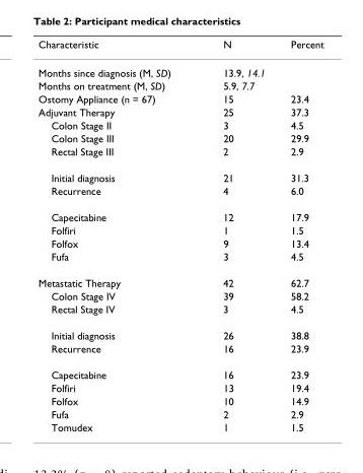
<table><thead><tr><td>Characteristic</td><td>N</td><td>Percent</td></tr></thead><tbody><tr><td>Months since diagnosis (M, SD)</td><td>13.9, 14.1</td><td></td></tr><tr><td>Months on treatment (M, SD)</td><td>5.9, 7.7</td><td></td></tr><tr><td>Ostomy Appliance (n = 67)</td><td>15</td><td>23.4</td></tr><tr><td>Adjuvant Therapy</td><td>25</td><td>37.3</td></tr><tr><td>Colon Stage II</td><td>3</td><td>4.5</td></tr><tr><td>Colon Stage III</td><td>20</td><td>29.9</td></tr><tr><td>Rectal Stage III</td><td>2</td><td>2.9</td></tr><tr><td>Initial diagnosis</td><td>21</td><td>31.3</td></tr><tr><td>Recurrence</td><td>4</td><td>6.0</td></tr><tr><td>Capecitabine</td><td>12</td><td>17.9</td></tr><tr><td>Folfiri</td><td>1</td><td>1.5</td></tr><tr><td>Folfox</td><td>9</td><td>13.4</td></tr><tr><td>Fufa</td><td>3</td><td>4.5</td></tr><tr><td>Metastatic Therapy</td><td>42</td><td>62.7</td></tr><tr><td>Colon Stage IV</td><td>39</td><td>58.2</td></tr><tr><td>Rectal Stage IV</td><td>3</td><td>4.5</td></tr><tr><td>Initial diagnosis</td><td>26</td><td>38.8</td></tr><tr><td>Recurrence</td><td>16</td><td>23.9</td></tr><tr><td>Capecitabine</td><td>16</td><td>23.9</td></tr><tr><td>Folfiri</td><td>13</td><td>19.4</td></tr><tr><td>Folfox</td><td>10</td><td>14.9</td></tr><tr><td>Fufa</td><td>2</td><td>2.9</td></tr><tr><td>Tomudex</td><td>1</td><td>1.5</td></tr></tbody></table>